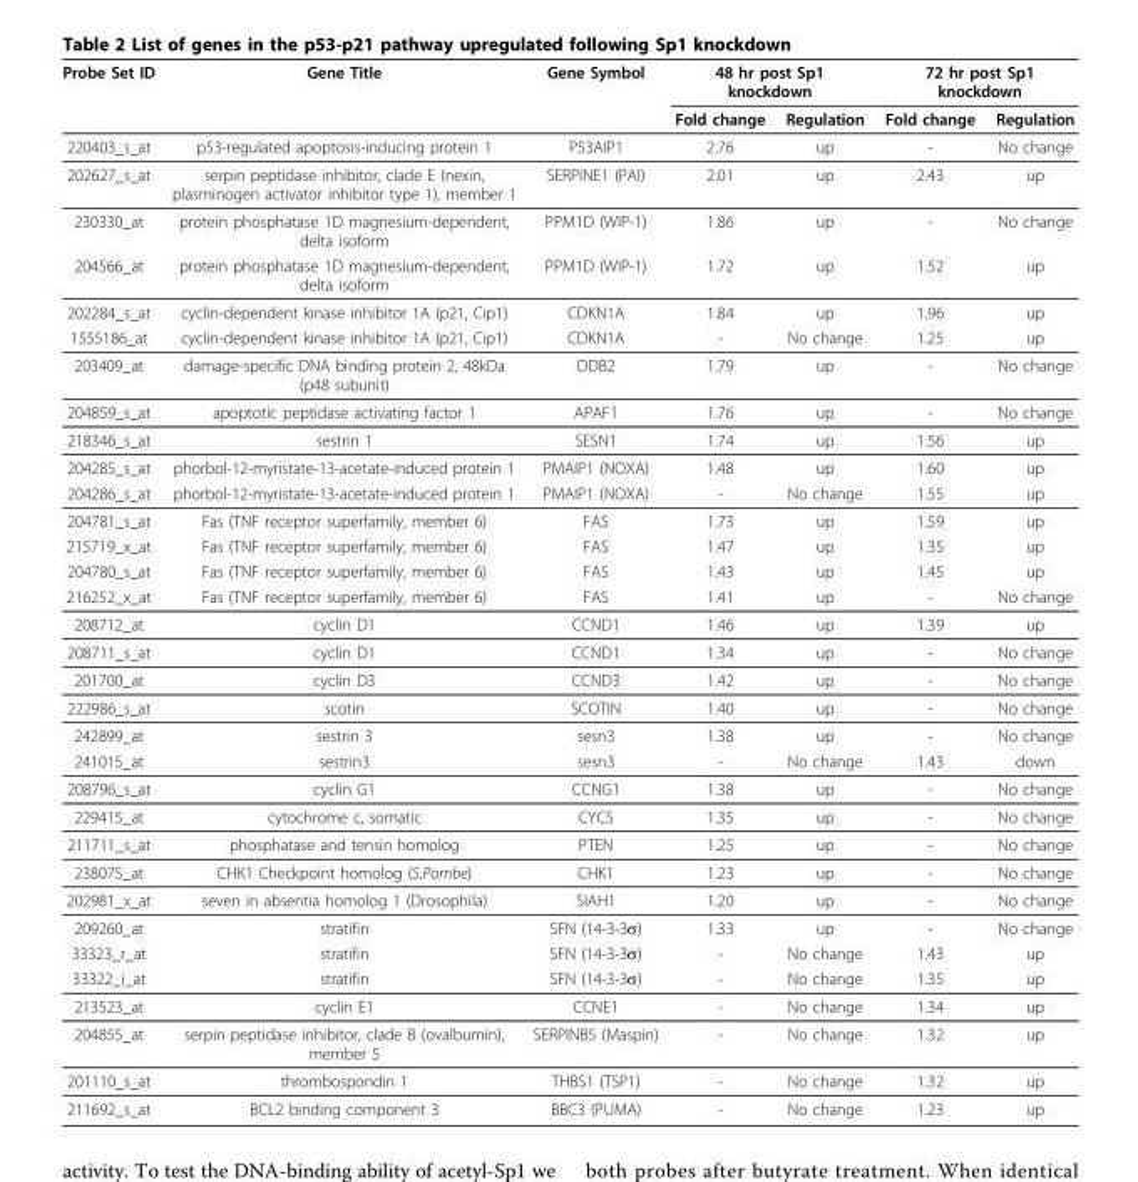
<table><thead><tr><td rowspan="2">Probe Set ID</td><td rowspan="2">Gene Title</td><td rowspan="2">Gene Symbol</td><td colspan="2">48 hr post Sp1 knockdown</td><td colspan="2">72 hr post Sp1 knockdown</td></tr><tr><td>Fold change</td><td>Regulation</td><td>Fold change</td><td>Regulation</td></tr></thead><tbody><tr><td>220403_s_at</td><td>p53-regulated apoptosis-inducing protein 1</td><td>P53AIP1</td><td>2.76</td><td>up</td><td>-</td><td>No change</td></tr><tr><td>202627_s_at</td><td>serpin peptidase inhibitor, clade E (nexin, plasminogen activator inhibitor type 1), member 1</td><td>SERPINE1 (PAI)</td><td>2.01</td><td>up</td><td>2.43</td><td>up</td></tr><tr><td>230330_at</td><td>protein phosphatase 1D magnesium-dependent, delta isoform</td><td>PPM1D (WIP-1)</td><td>1.86</td><td>up</td><td>-</td><td>No change</td></tr><tr><td>204566_at</td><td>protein phosphatase 1D magnesium-dependent, delta isoform</td><td>PPM1D (WIP-1)</td><td>1.72</td><td>up</td><td>1.52</td><td>up</td></tr><tr><td>202284_s_at</td><td>cyclin-dependent kinase inhibitor 1A (p21, Cip1)</td><td>CDKN1A</td><td>1.84</td><td>up</td><td>1.96</td><td>up</td></tr><tr><td>1555186_at</td><td>cyclin-dependent kinase inhibitor 1A (p21, Cip1)</td><td>CDKN1A</td><td>-</td><td>No change</td><td>1.25</td><td>up</td></tr><tr><td>203409_at</td><td>damage-specific DNA binding protein 2, 48kDa (p48 subunit)</td><td>DDB2</td><td>1.79</td><td>up</td><td>-</td><td>No change</td></tr><tr><td>204859_s_at</td><td>apoptotic peptidase activating factor 1</td><td>APAF1</td><td>1.76</td><td>up</td><td>-</td><td>No change</td></tr><tr><td>218346_s_at</td><td>sestrin 1</td><td>SESN1</td><td>1.74</td><td>up</td><td>1.56</td><td>up</td></tr><tr><td>204285_s_at</td><td>phorbol-12-myristate-13-acetate-induced protein 1</td><td>PMAIP1 (NOXA)</td><td>1.48</td><td>up</td><td>1.60</td><td>up</td></tr><tr><td>204286_s_at</td><td>phorbol-12-myristate-13-acetate-induced protein 1</td><td>PMAIP1 (NOXA)</td><td>-</td><td>No change</td><td>1.55</td><td>up</td></tr><tr><td>204781_s_at</td><td>Fas (TNF receptor superfamily, member 6)</td><td>FAS</td><td>1.73</td><td>up</td><td>1.59</td><td>up</td></tr><tr><td>215719_x_at</td><td>Fas (TNF receptor superfamily, member 6)</td><td>FAS</td><td>1.47</td><td>up</td><td>1.35</td><td>up</td></tr><tr><td>204780_s_at</td><td>Fas (TNF receptor superfamily, member 6)</td><td>FAS</td><td>1.43</td><td>up</td><td>1.45</td><td>up</td></tr><tr><td>216252_x_at</td><td>Fas (TNF receptor superfamily, member 6)</td><td>FAS</td><td>1.41</td><td>up</td><td>-</td><td>No change</td></tr><tr><td>208712_at</td><td>cyclin D1</td><td>CCND1</td><td>1.46</td><td>up</td><td>1.39</td><td>up</td></tr><tr><td>208711_s_at</td><td>cyclin D1</td><td>CCND1</td><td>1.34</td><td>up</td><td>-</td><td>No change</td></tr><tr><td>201700_at</td><td>cyclin D3</td><td>CCND3</td><td>1.42</td><td>up</td><td>-</td><td>No change</td></tr><tr><td>222986_s_at</td><td>scotin</td><td>SCOTIN</td><td>1.40</td><td>up</td><td>-</td><td>No change</td></tr><tr><td>242899_at</td><td>sestrin 3</td><td>sesn3</td><td>1.38</td><td>up</td><td>-</td><td>No change</td></tr><tr><td>241015_at</td><td>sestrin3</td><td>sesn3</td><td>-</td><td>No change</td><td>1.43</td><td>down</td></tr><tr><td>208796_s_at</td><td>cyclin G1</td><td>CCNG1</td><td>1.38</td><td>up</td><td>-</td><td>No change</td></tr><tr><td>229415_at</td><td>cytochrome c, somatic</td><td>CYCS</td><td>1.35</td><td>up</td><td>-</td><td>No change</td></tr><tr><td>211711_s_at</td><td>phosphatase and tensin homolog</td><td>PTEN</td><td>1.25</td><td>up</td><td>-</td><td>No change</td></tr><tr><td>238075_at</td><td>CHK1 Checkpoint homolog (S.Pombe)</td><td>CHK1</td><td>1.23</td><td>up</td><td>-</td><td>No change</td></tr><tr><td>202981_x_at</td><td>seven in absentia homolog 1 (Drosophila)</td><td>SIAH1</td><td>1.20</td><td>up</td><td>-</td><td>No change</td></tr><tr><td>209260_at</td><td>stratifin</td><td>SFN (14-3-3σ)</td><td>1.33</td><td>up</td><td>-</td><td>No change</td></tr><tr><td>33323_r_at</td><td>stratifin</td><td>SFN (14-3-3σ)</td><td>-</td><td>No change</td><td>1.43</td><td>up</td></tr><tr><td>33322_i_at</td><td>stratifin</td><td>SFN (14-3-3σ)</td><td>-</td><td>No change</td><td>1.35</td><td>up</td></tr><tr><td>213523_at</td><td>cyclin E1</td><td>CCNE1</td><td>-</td><td>No change</td><td>1.34</td><td>up</td></tr><tr><td>204855_at</td><td>serpin peptidase inhibitor, clade B (ovalbumin), member 5</td><td>SERPINB5 (Maspin)</td><td>-</td><td>No change</td><td>1.32</td><td>up</td></tr><tr><td>201110_s_at</td><td>thrombospondin 1</td><td>THBS1 (TSP1)</td><td>-</td><td>No change</td><td>1.32</td><td>up</td></tr><tr><td>211692_s_at</td><td>BCL2 binding component 3</td><td>BBC3 (PUMA)</td><td>-</td><td>No change</td><td>1.23</td><td>up</td></tr></tbody></table>